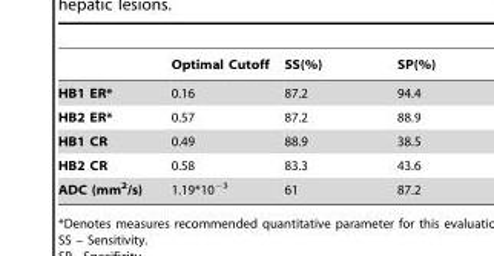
<table><thead><tr><td></td><td>Optimal Cutoff</td><td>SS(%)</td><td>SP(%)</td></tr></thead><tbody><tr><td>HB1 ER*</td><td>0.16</td><td>87.2</td><td>94.4</td></tr><tr><td>HB2 ER*</td><td>0.57</td><td>87.2</td><td>88.9</td></tr><tr><td>HB1 CR</td><td>0.49</td><td>88.9</td><td>38.5</td></tr><tr><td>HB2 CR</td><td>0.58</td><td>83.3</td><td>43.6</td></tr><tr><td>ADC (mm<sup>2</sup>/s)</td><td>1.19*10<sup>−3</sup></td><td>61</td><td>87.2</td></tr></tbody></table>